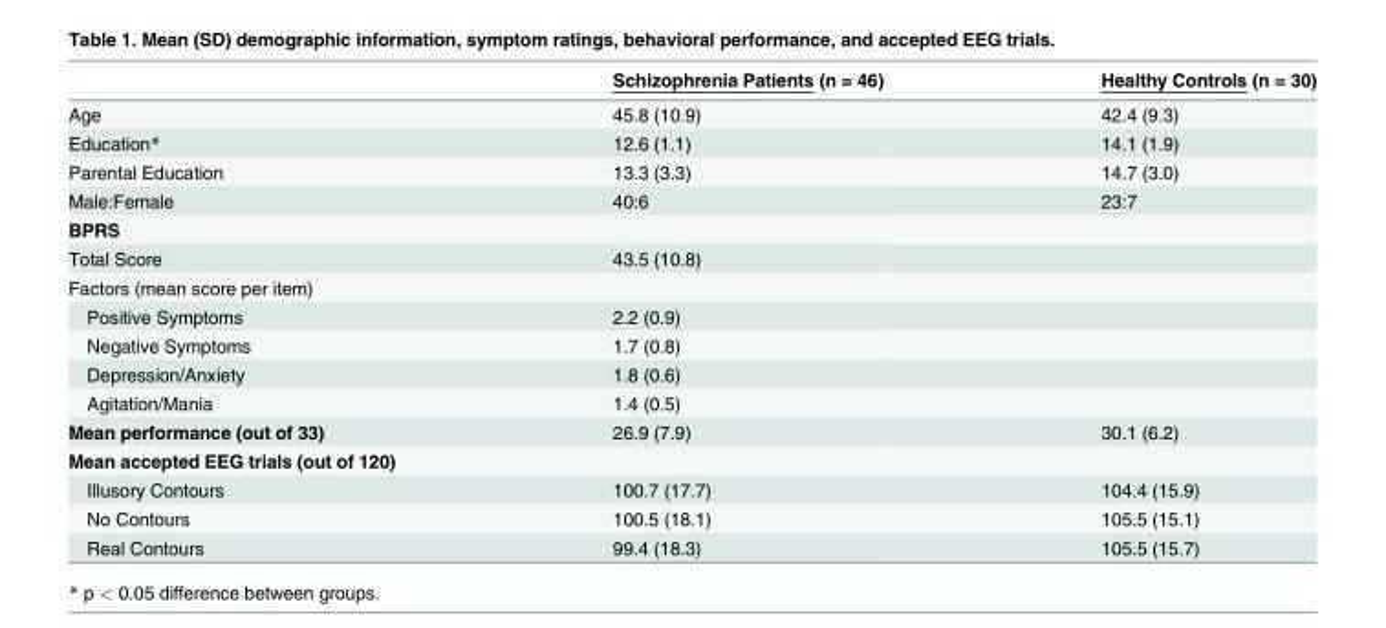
<table><thead><tr><td></td><td>Schizophrenia Patients (n = 46)</td><td>Healthy Controls (n = 30)</td></tr></thead><tbody><tr><td>Age</td><td>45.8 (10.9)</td><td>42.4 (9.3)</td></tr><tr><td>Education*</td><td>12.6 (1.1)</td><td>14.1 (1.9)</td></tr><tr><td>Parental Education</td><td>13.3 (3.3)</td><td>14.7 (3.0)</td></tr><tr><td>Male:Female</td><td>40:6</td><td>23:7</td></tr><tr><td colspan="3">BPRS</td></tr><tr><td>Total Score</td><td>43.5 (10.8)</td><td></td></tr><tr><td colspan="3">Factors (mean score per item)</td></tr><tr><td>Positive Symptoms</td><td>2.2 (0.9)</td><td></td></tr><tr><td>Negative Symptoms</td><td>1.7 (0.8)</td><td></td></tr><tr><td>Depression/Anxiety</td><td>1.8 (0.6)</td><td></td></tr><tr><td>Agitation/Mania</td><td>1.4 (0.5)</td><td></td></tr><tr><td>Mean performance (out of 33)</td><td>26.9 (7.9)</td><td>30.1 (6.2)</td></tr><tr><td colspan="3">Mean accepted EEG trials (out of 120)</td></tr><tr><td>Illusory Contours</td><td>100.7 (17.7)</td><td>104.4 (15.9)</td></tr><tr><td>No Contours</td><td>100.5 (18.1)</td><td>105.5 (15.1)</td></tr><tr><td>Real Contours</td><td>99.4 (18.3)</td><td>105.5 (15.7)</td></tr></tbody></table>